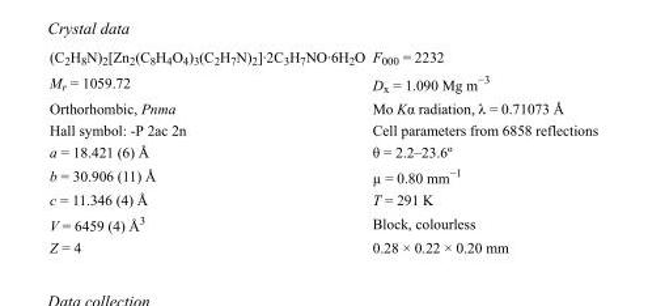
<table><tbody><tr><td>(C<sub>2</sub>H<sub>8</sub>N)<sub>2</sub>[Zn<sub>2</sub>(C<sub>8</sub>H<sub>4</sub>O<sub>4</sub>)<sub>3</sub>(C<sub>2</sub>H<sub>7</sub>N)<sub>2</sub>]·2C<sub>3</sub>H<sub>7</sub>NO·6H<sub>2</sub>O</td><td>F000 = 2232</td></tr><tr><td>M<sub>r</sub> = 1059.72</td><td>D<sub>x</sub> = 1.090 Mg m<sup>−3</sup></td></tr><tr><td>Orthorhombic, Pnma</td><td>Mo Kα radiation, λ = 0.71073 Å</td></tr><tr><td>Hall symbol: -P 2ac 2n</td><td>Cell parameters from 6858 reflections</td></tr><tr><td>a = 18.421 (6) Å</td><td>θ = 2.2–23.6º</td></tr><tr><td>b = 30.906 (11) Å</td><td>µ = 0.80 mm<sup>−1</sup></td></tr><tr><td>c = 11.346 (4) Å</td><td>T = 291 K</td></tr><tr><td>V = 6459 (4) Å<sup>3</sup></td><td>Block, colourless</td></tr><tr><td>Z = 4</td><td>0.28 × 0.22 × 0.20 mm</td></tr></tbody></table>